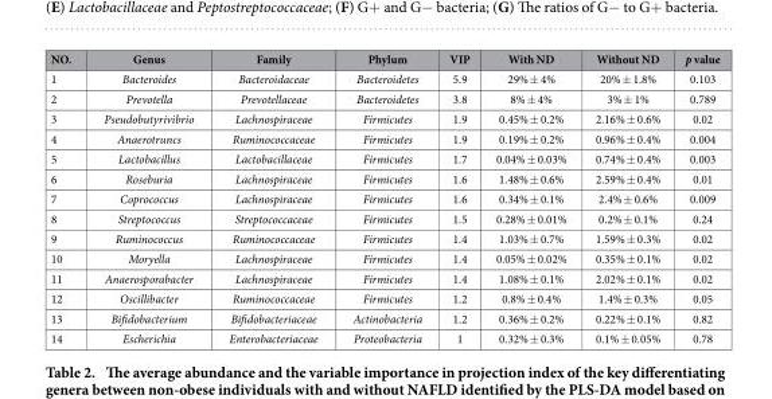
<table><thead><tr><td>NO.</td><td>Genus</td><td>Family</td><td>Phylum</td><td>VIP</td><td>With ND</td><td>Without ND</td><td>p value</td></tr></thead><tbody><tr><td>1</td><td>Bacteroides</td><td>Bacteroidaceae</td><td>Bacteroidetes</td><td>5.9</td><td>29% ± 4%</td><td>20% ± 1.8%</td><td>0.103</td></tr><tr><td>2</td><td>Prevotella</td><td>Prevotellaceae</td><td>Bacteroidetes</td><td>3.8</td><td>8% ± 4%</td><td>3% ± 1%</td><td>0.789</td></tr><tr><td>3</td><td>Pseudobutyrivibrio</td><td>Lachnospiraceae</td><td>Firmicutes</td><td>1.9</td><td>0.45% ± 0.2%</td><td>2.16% ± 0.6%</td><td>0.02</td></tr><tr><td>4</td><td>Anaerotruncs</td><td>Ruminococcaceae</td><td>Firmicutes</td><td>1.9</td><td>0.19% ± 0.2%</td><td>0.96% ± 0.4%</td><td>0.004</td></tr><tr><td>5</td><td>Lactobacillus</td><td>Lactobacillaceae</td><td>Firmicutes</td><td>1.7</td><td>0.04% ± 0.03%</td><td>0.74% ± 0.4%</td><td>0.003</td></tr><tr><td>6</td><td>Roseburia</td><td>Lachnospiraceae</td><td>Firmicutes</td><td>1.6</td><td>1.48% ± 0.6%</td><td>2.59% ± 0.4%</td><td>0.01</td></tr><tr><td>7</td><td>Coprococcus</td><td>Lachnospiraceae</td><td>Firmicutes</td><td>1.6</td><td>0.34% ± 0.1%</td><td>2.4% ± 0.6%</td><td>0.009</td></tr><tr><td>8</td><td>Streptococcus</td><td>Streptococcaceae</td><td>Firmicutes</td><td>1.5</td><td>0.28% ± 0.01%</td><td>0.2% ± 0.1%</td><td>0.24</td></tr><tr><td>9</td><td>Ruminococcus</td><td>Ruminococcaceae</td><td>Firmicutes</td><td>1.4</td><td>1.03% ± 0.7%</td><td>1.59% ± 0.3%</td><td>0.02</td></tr><tr><td>10</td><td>Moryella</td><td>Lachnospiraceae</td><td>Firmicutes</td><td>1.4</td><td>0.05% ± 0.02%</td><td>0.35% ± 0.1%</td><td>0.02</td></tr><tr><td>11</td><td>Anaerosporabacter</td><td>Lachnospiraceae</td><td>Firmicutes</td><td>1.4</td><td>1.08% ± 0.1%</td><td>2.02% ± 0.1%</td><td>0.02</td></tr><tr><td>12</td><td>Oscillibacter</td><td>Ruminococcaceae</td><td>Firmicutes</td><td>1.2</td><td>0.8% ± 0.4%</td><td>1.4% ± 0.3%</td><td>0.05</td></tr><tr><td>13</td><td>Bifidobacterium</td><td>Bifidobacteriaceae</td><td>Actinobacteria</td><td>1.2</td><td>0.36% ± 0.2%</td><td>0.22% ± 0.1%</td><td>0.82</td></tr><tr><td>14</td><td>Escherichia</td><td>Enterobacteriaceae</td><td>Proteobacteria</td><td>1</td><td>0.32% ± 0.3%</td><td>0.1% ± 0.05%</td><td>0.78</td></tr></tbody></table>